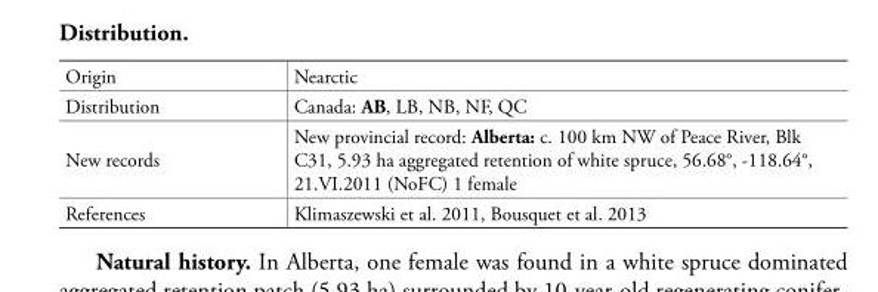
<table><tbody><tr><td>Origin</td><td>Nearctic</td></tr><tr><td>Distribution</td><td>Canada: AB, LB, NB, NF, QC</td></tr><tr><td>New records</td><td>New provincial record: Alberta: c. 100 km NW of Peace River, Blk C31, 5.93 ha aggregated retention of white spruce, 56.68°, -118.64°, 21.VI.2011 (NoFC) 1 female</td></tr><tr><td>References</td><td>Klimaszewski et al. 2011, Bousquet et al. 2013</td></tr></tbody></table>